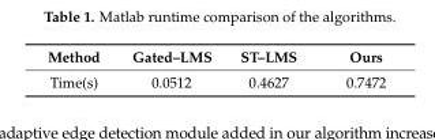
<table><thead><tr><td>Method</td><td>Gated–LMS</td><td>ST–LMS</td><td>Ours</td></tr></thead><tbody><tr><td>Time(s)</td><td>0.0512</td><td>0.4627</td><td>0.7472</td></tr></tbody></table>